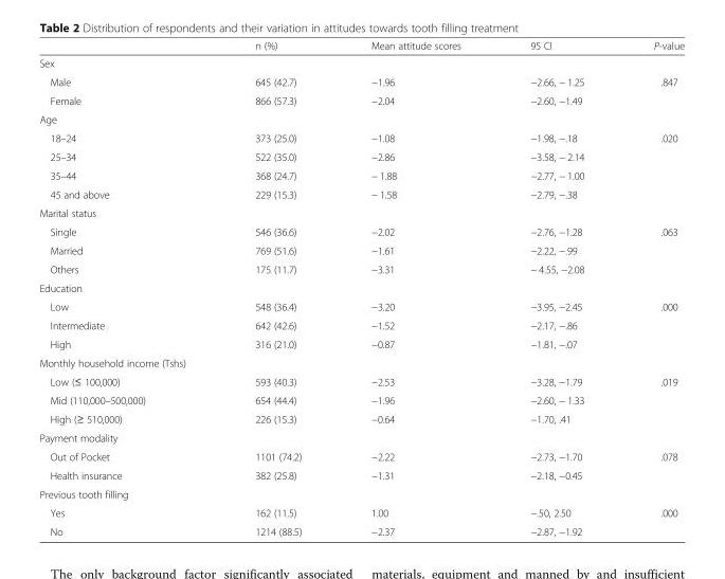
<table><thead><tr><td></td><td>n (%)</td><td>Mean attitude scores</td><td>95 CI</td><td>P-value</td></tr></thead><tbody><tr><td colspan="5">Sex</td></tr><tr><td>Male</td><td>645 (42.7)</td><td>−1.96</td><td>−2.66, − 1.25</td><td rowspan="2">.847</td></tr><tr><td>Female</td><td>866 (57.3)</td><td>−2.04</td><td>−2.60, −1.49</td></tr><tr><td colspan="5">Age</td></tr><tr><td>18–24</td><td>373 (25.0)</td><td>−1.08</td><td>−1.98, −.18</td><td rowspan="4">.020</td></tr><tr><td>25–34</td><td>522 (35.0)</td><td>−2.86</td><td>−3.58, − 2.14</td></tr><tr><td>35–44</td><td>368 (24.7)</td><td>− 1.88</td><td>−2.77, − 1.00</td></tr><tr><td>45 and above</td><td>229 (15.3)</td><td>− 1.58</td><td>−2.79, −.38</td></tr><tr><td colspan="5">Marital status</td></tr><tr><td>Single</td><td>546 (36.6)</td><td>−2.02</td><td>−2.76, −1.28</td><td rowspan="3">.063</td></tr><tr><td>Married</td><td>769 (51.6)</td><td>−1.61</td><td>−2.22, −.99</td></tr><tr><td>Others</td><td>175 (11.7)</td><td>−3.31</td><td>− 4.55, −2.08</td></tr><tr><td colspan="5">Education</td></tr><tr><td>Low</td><td>548 (36.4)</td><td>−3.20</td><td>−3.95, −2.45</td><td rowspan="3">.000</td></tr><tr><td>Intermediate</td><td>642 (42.6)</td><td>−1.52</td><td>−2.17, −.86</td></tr><tr><td>High</td><td>316 (21.0)</td><td>−0.87</td><td>−1.81, −.07</td></tr><tr><td colspan="5">Monthly household income (Tshs)</td></tr><tr><td>Low (≤ 100,000)</td><td>593 (40.3)</td><td>−2.53</td><td>−3.28, −1.79</td><td rowspan="3">.019</td></tr><tr><td>Mid (110,000–500,000)</td><td>654 (44.4)</td><td>−1.96</td><td>−2.60, − 1.33</td></tr><tr><td>High (≥ 510,000)</td><td>226 (15.3)</td><td>−0.64</td><td>−1.70, .41</td></tr><tr><td colspan="5">Payment modality</td></tr><tr><td>Out of Pocket</td><td>1101 (74.2)</td><td>−2.22</td><td>−2.73, −1.70</td><td rowspan="2">.078</td></tr><tr><td>Health insurance</td><td>382 (25.8)</td><td>−1.31</td><td>−2.18, −0.45</td></tr><tr><td colspan="5">Previous tooth filling</td></tr><tr><td>Yes</td><td>162 (11.5)</td><td>1.00</td><td>−.50, 2.50</td><td rowspan="2">.000</td></tr><tr><td>No</td><td>1214 (88.5)</td><td>−2.37</td><td>−2.87, −1.92</td></tr></tbody></table>